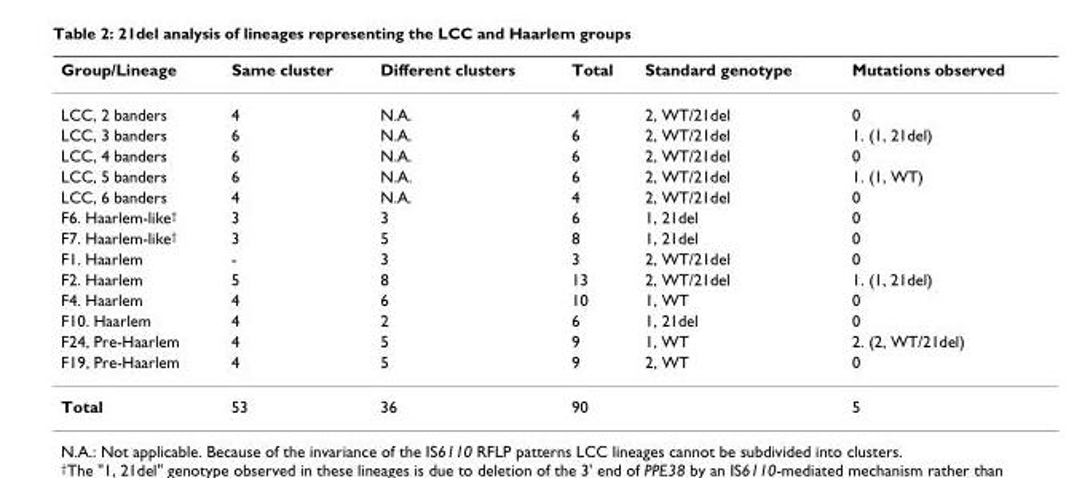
<table><thead><tr><td>Group/Lineage</td><td>Same cluster</td><td>Different clusters</td><td>Total</td><td>Standard genotype</td><td>Mutations observed</td></tr></thead><tbody><tr><td>LCC, 2 banders</td><td>4</td><td>N.A.</td><td>4</td><td>2, WT/21del</td><td>0</td></tr><tr><td>LCC, 3 banders</td><td>6</td><td>N.A.</td><td>6</td><td>2, WT/21del</td><td>1. (1, 21del)</td></tr><tr><td>LCC, 4 banders</td><td>6</td><td>N.A.</td><td>6</td><td>2, WT/21del</td><td>0</td></tr><tr><td>LCC, 5 banders</td><td>6</td><td>N.A.</td><td>6</td><td>2, WT/21del</td><td>1. (1, WT)</td></tr><tr><td>LCC, 6 banders</td><td>4</td><td>N.A.</td><td>4</td><td>2, WT/21del</td><td>0</td></tr><tr><td>F6. Haarlem-like<sup>†</sup></td><td>3</td><td>3</td><td>6</td><td>1, 21del</td><td>0</td></tr><tr><td>F7. Haarlem-like<sup>†</sup></td><td>3</td><td>5</td><td>8</td><td>1, 21del</td><td>0</td></tr><tr><td>F1. Haarlem</td><td>-</td><td>3</td><td>3</td><td>2, WT/21del</td><td>0</td></tr><tr><td>F2. Haarlem</td><td>5</td><td>8</td><td>13</td><td>2, WT/21del</td><td>1. (1, 21del)</td></tr><tr><td>F4. Haarlem</td><td>4</td><td>6</td><td>10</td><td>1, WT</td><td>0</td></tr><tr><td>F10. Haarlem</td><td>4</td><td>2</td><td>6</td><td>1, 21del</td><td>0</td></tr><tr><td>F24, Pre-Haarlem</td><td>4</td><td>5</td><td>9</td><td>1, WT</td><td>2. (2, WT/21del)</td></tr><tr><td>F19, Pre-Haarlem</td><td>4</td><td>5</td><td>9</td><td>2, WT</td><td>0</td></tr><tr><td>Total</td><td>53</td><td>36</td><td>90</td><td></td><td>5</td></tr></tbody></table>